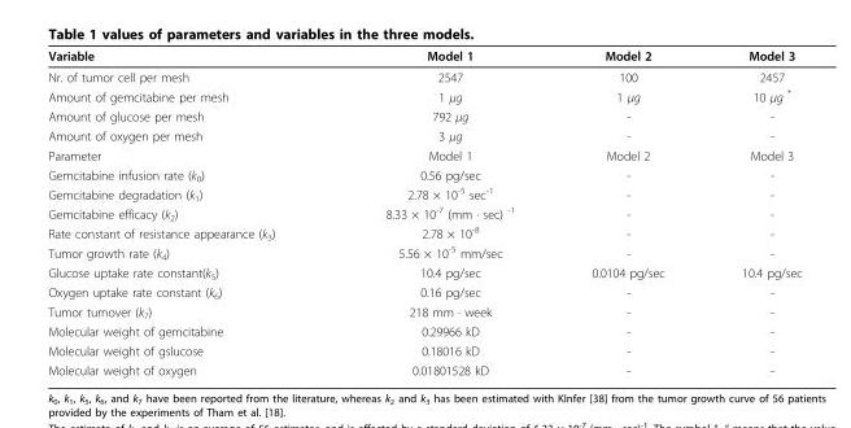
<table><thead><tr><td>Variable</td><td>Model 1</td><td>Model 2</td><td>Model 3</td></tr></thead><tbody><tr><td>Nr. of tumor cell per mesh</td><td>2547</td><td>100</td><td>2457</td></tr><tr><td>Amount of gemcitabine per mesh</td><td>1 μg</td><td>1 μg</td><td>10 μg *</td></tr><tr><td>Amount of glucose per mesh</td><td>792 μg</td><td>-</td><td>-</td></tr><tr><td>Amount of oxygen per mesh</td><td>3 μg</td><td>-</td><td>-</td></tr><tr><td>Parameter</td><td>Model 1</td><td>Model 2</td><td>Model 3</td></tr><tr><td>Gemcitabine infusion rate (k<sub>0</sub>)</td><td>0.56 pg/sec</td><td>-</td><td>-</td></tr><tr><td>Gemcitabine degradation (k<sub>1</sub>)</td><td>2.78 × 10<sup>-5</sup> sec<sup>-1</sup></td><td>-</td><td>-</td></tr><tr><td>Gemcitabine efficacy (k<sub>2</sub>)</td><td>8.33 × 10<sup>-7</sup> (mm · sec) <sup>-1</sup></td><td>-</td><td>-</td></tr><tr><td>Rate constant of resistance appearance (k<sub>3</sub>)</td><td>2.78 × 10<sup>-8</sup></td><td>-</td><td>-</td></tr><tr><td>Tumor growth rate (k<sub>4</sub>)</td><td>5.56 × 10<sup>-5</sup> mm/sec</td><td>-</td><td>-</td></tr><tr><td>Glucose uptake rate constant(k<sub>5</sub>)</td><td>10.4 pg/sec</td><td>0.0104 pg/sec</td><td>10.4 pg/sec</td></tr><tr><td>Oxygen uptake rate constant (k<sub>6</sub>)</td><td>0.16 pg/sec</td><td>-</td><td>-</td></tr><tr><td>Tumor turnover (k<sub>7</sub>)</td><td>218 mm · week</td><td>-</td><td>-</td></tr><tr><td>Molecular weight of gemcitabine</td><td>0.29966 kD</td><td>-</td><td>-</td></tr><tr><td>Molecular weight of gslucose</td><td>0.18016 kD</td><td>-</td><td>-</td></tr><tr><td>Molecular weight of oxygen</td><td>0.01801528 kD</td><td>-</td><td>-</td></tr></tbody></table>